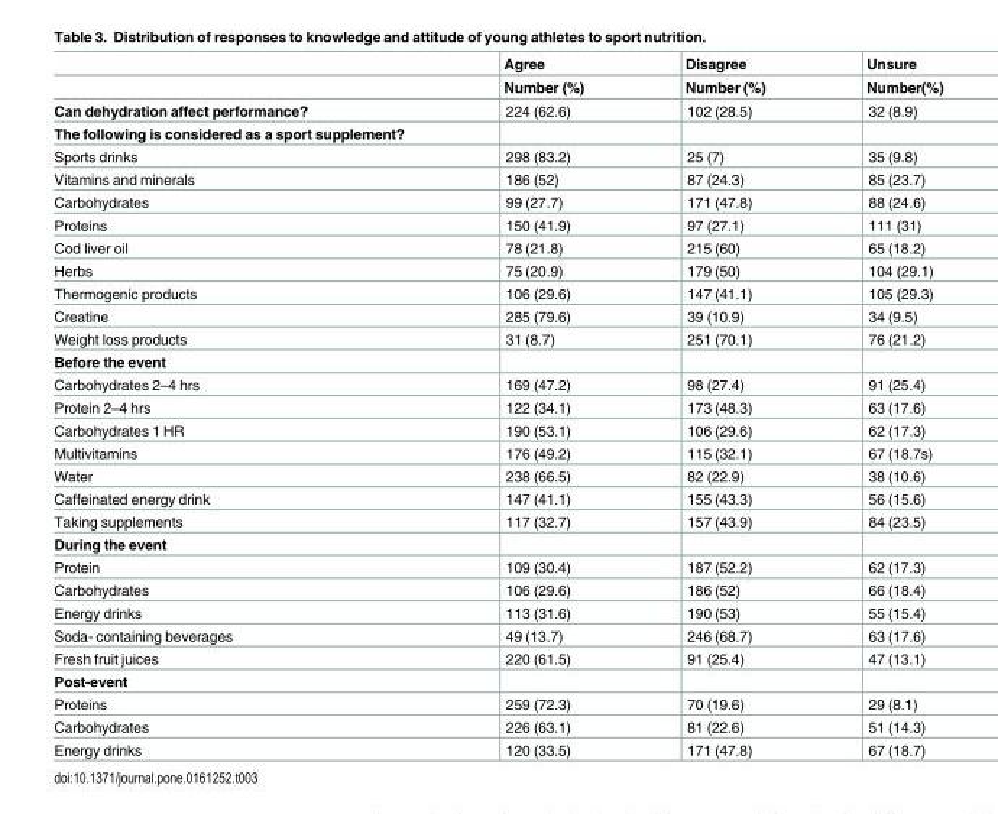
<table><thead><tr><td rowspan="2"></td><td rowspan="2">Agree Number (%)</td><td rowspan="2">Disagree Number (%)</td><td rowspan="2">Unsure Number(%)</td></tr><tr></tr></thead><tbody><tr><td>Can dehydration affect performance?</td><td>224 (62.6)</td><td>102 (28.5)</td><td>32 (8.9)</td></tr><tr><td colspan="4">The following is considered as a sport supplement?</td></tr><tr><td>Sports drinks</td><td>298 (83.2)</td><td>25 (7)</td><td>35 (9.8)</td></tr><tr><td>Vitamins and minerals</td><td>186 (52)</td><td>87 (24.3)</td><td>85 (23.7)</td></tr><tr><td>Carbohydrates</td><td>99 (27.7)</td><td>171 (47.8)</td><td>88 (24.6)</td></tr><tr><td>Proteins</td><td>150 (41.9)</td><td>97 (27.1)</td><td>111 (31)</td></tr><tr><td>Cod liver oil</td><td>78 (21.8)</td><td>215 (60)</td><td>65 (18.2)</td></tr><tr><td>Herbs</td><td>75 (20.9)</td><td>179 (50)</td><td>104 (29.1)</td></tr><tr><td>Thermogenic products</td><td>106 (29.6)</td><td>147 (41.1)</td><td>105 (29.3)</td></tr><tr><td>Creatine</td><td>285 (79.6)</td><td>39 (10.9)</td><td>34 (9.5)</td></tr><tr><td>Weight loss products</td><td>31 (8.7)</td><td>251 (70.1)</td><td>76 (21.2)</td></tr><tr><td colspan="4">Before the event</td></tr><tr><td>Carbohydrates 2–4 hrs</td><td>169 (47.2)</td><td>98 (27.4)</td><td>91 (25.4)</td></tr><tr><td>Protein 2–4 hrs</td><td>122 (34.1)</td><td>173 (48.3)</td><td>63 (17.6)</td></tr><tr><td>Carbohydrates 1 HR</td><td>190 (53.1)</td><td>106 (29.6)</td><td>62 (17.3)</td></tr><tr><td>Multivitamins</td><td>176 (49.2)</td><td>115 (32.1)</td><td>67 (18.7s)</td></tr><tr><td>Water</td><td>238 (66.5)</td><td>82 (22.9)</td><td>38 (10.6)</td></tr><tr><td>Caffeinated energy drink</td><td>147 (41.1)</td><td>155 (43.3)</td><td>56 (15.6)</td></tr><tr><td>Taking supplements</td><td>117 (32.7)</td><td>157 (43.9)</td><td>84 (23.5)</td></tr><tr><td colspan="4">During the event</td></tr><tr><td>Protein</td><td>109 (30.4)</td><td>187 (52.2)</td><td>62 (17.3)</td></tr><tr><td>Carbohydrates</td><td>106 (29.6)</td><td>186 (52)</td><td>66 (18.4)</td></tr><tr><td>Energy drinks</td><td>113 (31.6)</td><td>190 (53)</td><td>55 (15.4)</td></tr><tr><td>Soda- containing beverages</td><td>49 (13.7)</td><td>246 (68.7)</td><td>63 (17.6)</td></tr><tr><td>Fresh fruit juices</td><td>220 (61.5)</td><td>91 (25.4)</td><td>47 (13.1)</td></tr><tr><td colspan="4">Post-event</td></tr><tr><td>Proteins</td><td>259 (72.3)</td><td>70 (19.6)</td><td>29 (8.1)</td></tr><tr><td>Carbohydrates</td><td>226 (63.1)</td><td>81 (22.6)</td><td>51 (14.3)</td></tr><tr><td>Energy drinks</td><td>120 (33.5)</td><td>171 (47.8)</td><td>67 (18.7)</td></tr></tbody></table>